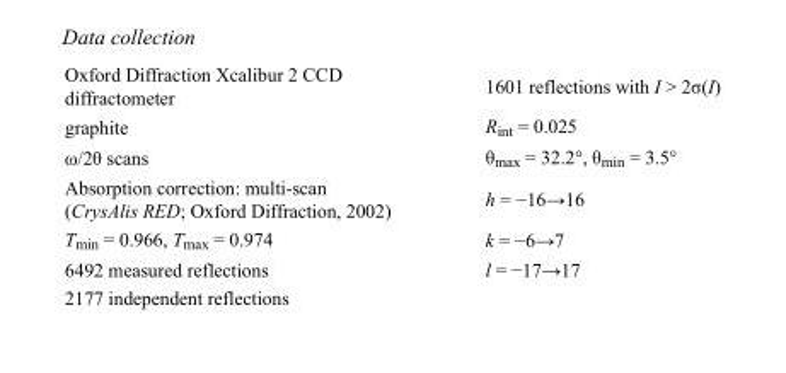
<table><tbody><tr><td>Oxford Diffraction Xcalibur 2 CCD diffractometer</td><td>1601 reflections with I &gt; 2σ(I)</td></tr><tr><td>graphite</td><td>R<sub>int</sub> = 0.025</td></tr><tr><td>ω/2θ scans</td><td>θ<sub>max</sub> = 32.2°, θ<sub>min</sub> = 3.5°</td></tr><tr><td>Absorption correction: multi-scan (CrysAlis RED; Oxford Diffraction, 2002)</td><td>h = −16→16</td></tr><tr><td>T<sub>min</sub> = 0.966, T<sub>max</sub> = 0.974</td><td>k = −6→7</td></tr><tr><td>6492 measured reflections</td><td>l = −17→17</td></tr><tr><td>2177 independent reflections</td><td></td></tr></tbody></table>